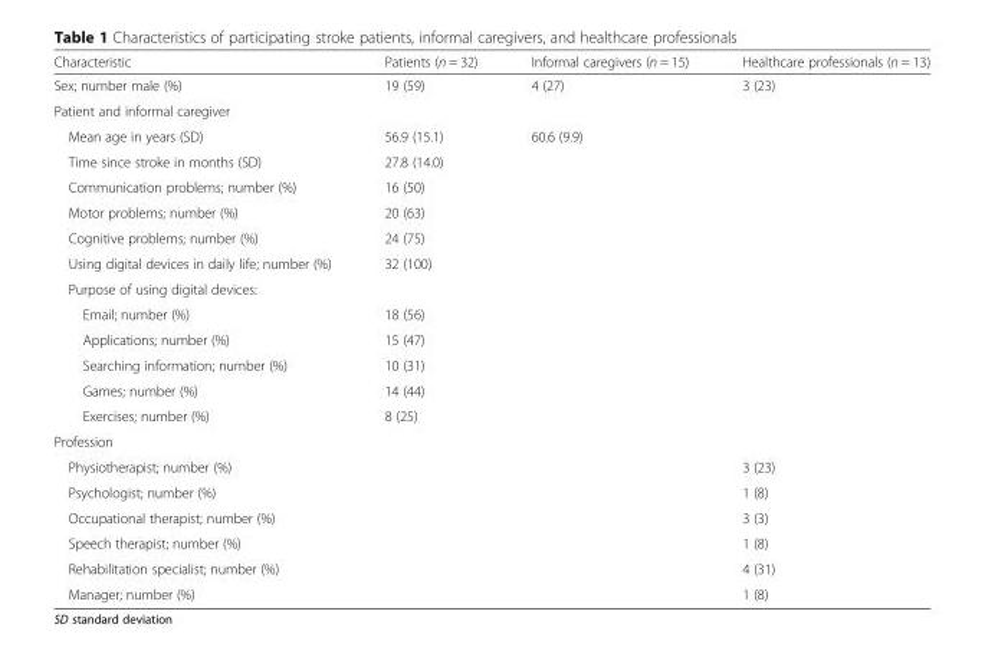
<table><thead><tr><td>Characteristic</td><td>Patients (n = 32)</td><td>Informal caregivers (n = 15)</td><td>Healthcare professionals (n = 13)</td></tr></thead><tbody><tr><td>Sex; number male (%)</td><td>19 (59)</td><td>4 (27)</td><td>3 (23)</td></tr><tr><td colspan="4">Patient and informal caregiver</td></tr><tr><td>Mean age in years (SD)</td><td>56.9 (15.1)</td><td>60.6 (9.9)</td><td></td></tr><tr><td>Time since stroke in months (SD)</td><td>27.8 (14.0)</td><td></td><td></td></tr><tr><td>Communication problems; number (%)</td><td>16 (50)</td><td></td><td></td></tr><tr><td>Motor problems; number (%)</td><td>20 (63)</td><td></td><td></td></tr><tr><td>Cognitive problems; number (%)</td><td>24 (75)</td><td></td><td></td></tr><tr><td>Using digital devices in daily life; number (%)</td><td>32 (100)</td><td></td><td></td></tr><tr><td colspan="4">Purpose of using digital devices:</td></tr><tr><td>Email; number (%)</td><td>18 (56)</td><td></td><td></td></tr><tr><td>Applications; number (%)</td><td>15 (47)</td><td></td><td></td></tr><tr><td>Searching information; number (%)</td><td>10 (31)</td><td></td><td></td></tr><tr><td>Games; number (%)</td><td>14 (44)</td><td></td><td></td></tr><tr><td>Exercises; number (%)</td><td>8 (25)</td><td></td><td></td></tr><tr><td colspan="4">Profession</td></tr><tr><td>Physiotherapist; number (%)</td><td></td><td></td><td>3 (23)</td></tr><tr><td>Psychologist; number (%)</td><td></td><td></td><td>1 (8)</td></tr><tr><td>Occupational therapist; number (%)</td><td></td><td></td><td>3 (3)</td></tr><tr><td>Speech therapist; number (%)</td><td></td><td></td><td>1 (8)</td></tr><tr><td>Rehabilitation specialist; number (%)</td><td></td><td></td><td>4 (31)</td></tr><tr><td>Manager; number (%)</td><td></td><td></td><td>1 (8)</td></tr></tbody></table>